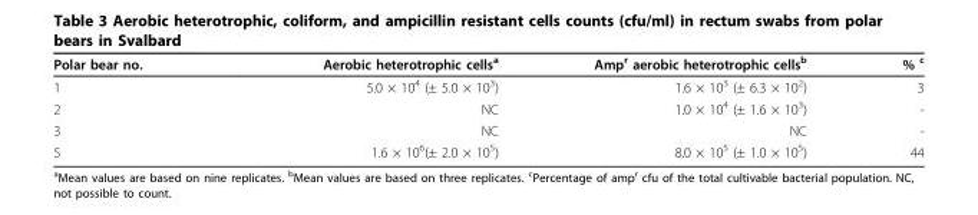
<table><thead><tr><td>Polar bear no.</td><td>Aerobic heterotrophic cells<sup>a</sup></td><td>Amp<sup>r</sup> aerobic heterotrophic cells<sup>b</sup></td><td>% <sup>c</sup></td></tr></thead><tbody><tr><td>1</td><td>5.0 × 10<sup>4</sup> (± 5.0 × 10<sup>3</sup>)</td><td>1.6 × 10<sup>3</sup> (± 6.3 × 10<sup>2</sup>)</td><td>3</td></tr><tr><td>2</td><td>NC</td><td>1.0 × 10<sup>4</sup> (± 1.6 × 10<sup>3</sup>)</td><td>-</td></tr><tr><td>3</td><td>NC</td><td>NC</td><td>-</td></tr><tr><td>5</td><td>1.6 × 10<sup>6</sup>(± 2.0 × 10<sup>5</sup>)</td><td>8.0 × 10<sup>5</sup> (± 1.0 × 10<sup>5</sup>)</td><td>44</td></tr></tbody></table>